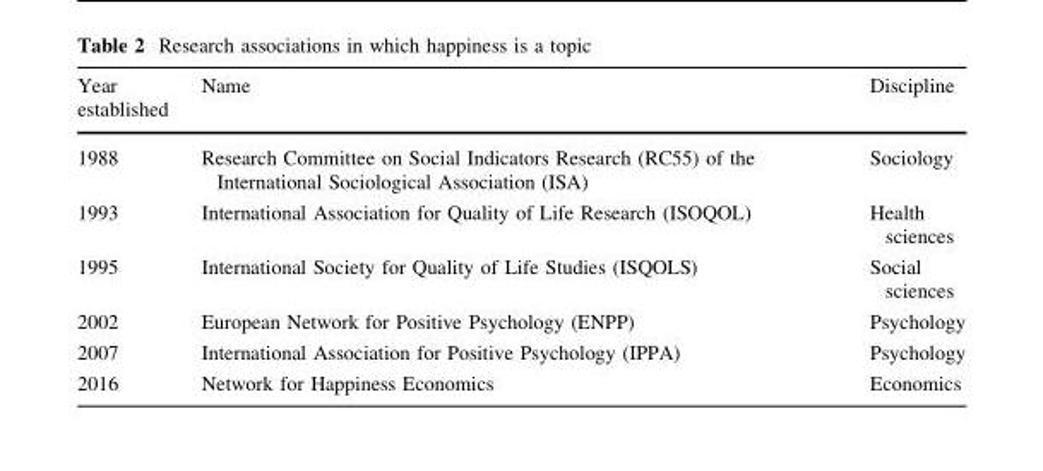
<table><thead><tr><td>Year established</td><td>Name</td><td>Discipline</td></tr></thead><tbody><tr><td>1988</td><td>Research Committee on Social Indicators Research (RC55) of the International Sociological Association (ISA)</td><td>Sociology</td></tr><tr><td>1993</td><td>International Association for Quality of Life Research (ISOQOL)</td><td>Health sciences</td></tr><tr><td>1995</td><td>International Society for Quality of Life Studies (ISQOLS)</td><td>Social sciences</td></tr><tr><td>2002</td><td>European Network for Positive Psychology (ENPP)</td><td>Psychology</td></tr><tr><td>2007</td><td>International Association for Positive Psychology (IPPA)</td><td>Psychology</td></tr><tr><td>2016</td><td>Network for Happiness Economics</td><td>Economics</td></tr></tbody></table>